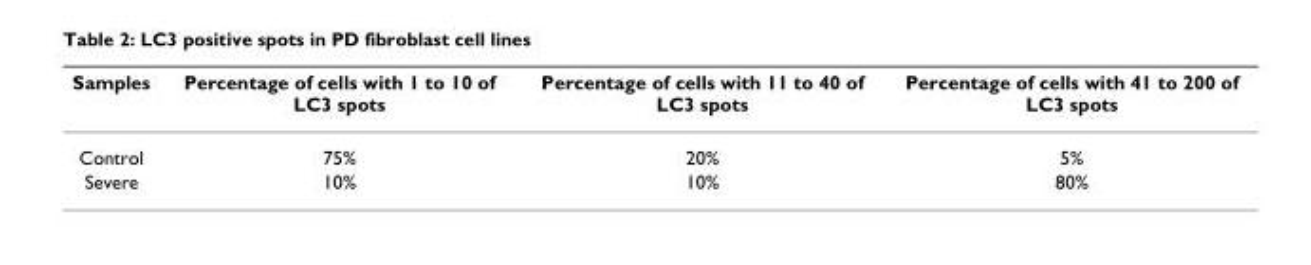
<table><thead><tr><td>Samples</td><td>Percentage of cells with 1 to 10 of LC3 spots</td><td>Percentage of cells with 11 to 40 of LC3 spots</td><td>Percentage of cells with 41 to 200 of LC3 spots</td></tr></thead><tbody><tr><td>Control</td><td>75%</td><td>20%</td><td>5%</td></tr><tr><td>Severe</td><td>10%</td><td>10%</td><td>80%</td></tr></tbody></table>